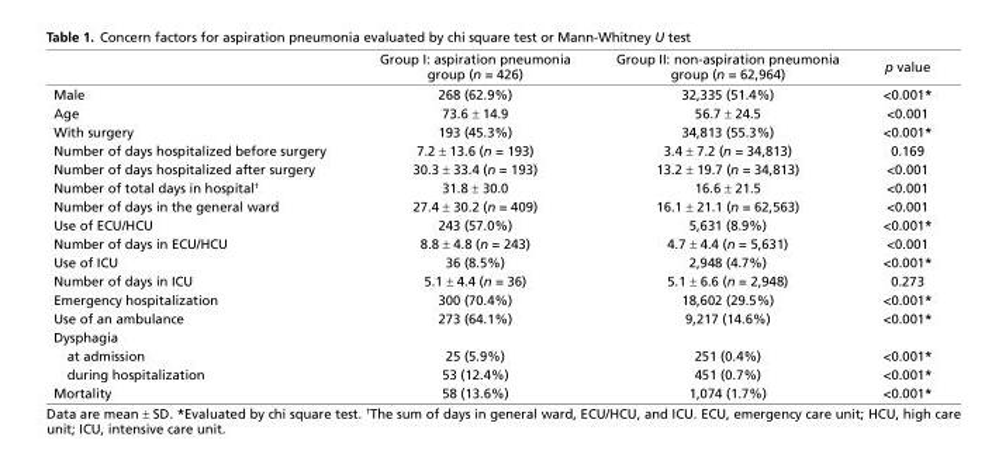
<table><thead><tr><td></td><td>Group I: aspiration pneumonia group (n = 426)</td><td>Group II: non-aspiration pneumonia group (n = 62,964)</td><td>p value</td></tr></thead><tbody><tr><td>Male</td><td>268 (62.9%)</td><td>32,335 (51.4%)</td><td>&lt;0.001*</td></tr><tr><td>Age</td><td>73.6 ± 14.9</td><td>56.7 ± 24.5</td><td>&lt;0.001</td></tr><tr><td>With surgery</td><td>193 (45.3%)</td><td>34,813 (55.3%)</td><td>&lt;0.001*</td></tr><tr><td>Number of days hospitalized before surgery</td><td>7.2 ± 13.6 (n = 193)</td><td>3.4 ± 7.2 (n = 34,813)</td><td>0.169</td></tr><tr><td>Number of days hospitalized after surgery</td><td>30.3 ± 33.4 (n = 193)</td><td>13.2 ± 19.7 (n = 34,813)</td><td>&lt;0.001</td></tr><tr><td>Number of total days in hospital<sup>†</sup></td><td>31.8 ± 30.0</td><td>16.6 ± 21.5</td><td>&lt;0.001</td></tr><tr><td>Number of days in the general ward</td><td>27.4 ± 30.2 (n = 409)</td><td>16.1 ± 21.1 (n = 62,563)</td><td>&lt;0.001</td></tr><tr><td>Use of ECU/HCU</td><td>243 (57.0%)</td><td>5,631 (8.9%)</td><td>&lt;0.001*</td></tr><tr><td>Number of days in ECU/HCU</td><td>8.8 ± 4.8 (n = 243)</td><td>4.7 ± 4.4 (n = 5,631)</td><td>&lt;0.001</td></tr><tr><td>Use of ICU</td><td>36 (8.5%)</td><td>2,948 (4.7%)</td><td>&lt;0.001*</td></tr><tr><td>Number of days in ICU</td><td>5.1 ± 4.4 (n = 36)</td><td>5.1 ± 6.6 (n = 2,948)</td><td>0.273</td></tr><tr><td>Emergency hospitalization</td><td>300 (70.4%)</td><td>18,602 (29.5%)</td><td>&lt;0.001*</td></tr><tr><td>Use of an ambulance</td><td>273 (64.1%)</td><td>9,217 (14.6%)</td><td>&lt;0.001*</td></tr><tr><td colspan="4">Dysphagia</td></tr><tr><td>at admission</td><td>25 (5.9%)</td><td>251 (0.4%)</td><td>&lt;0.001*</td></tr><tr><td>during hospitalization</td><td>53 (12.4%)</td><td>451 (0.7%)</td><td>&lt;0.001*</td></tr><tr><td>Mortality</td><td>58 (13.6%)</td><td>1,074 (1.7%)</td><td>&lt;0.001*</td></tr></tbody></table>